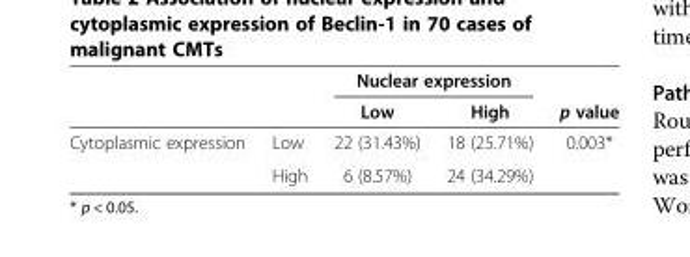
<table><thead><tr><td rowspan="2"></td><td rowspan="2"></td><td colspan="2">Nuclear expression</td><td rowspan="2">p value</td></tr><tr><td>Low</td><td>High</td></tr></thead><tbody><tr><td rowspan="2">Cytoplasmic expression</td><td>Low</td><td>22 (31.43%)</td><td>18 (25.71%)</td><td>0.003*</td></tr><tr><td>High</td><td>6 (8.57%)</td><td>24 (34.29%)</td><td></td></tr></tbody></table>